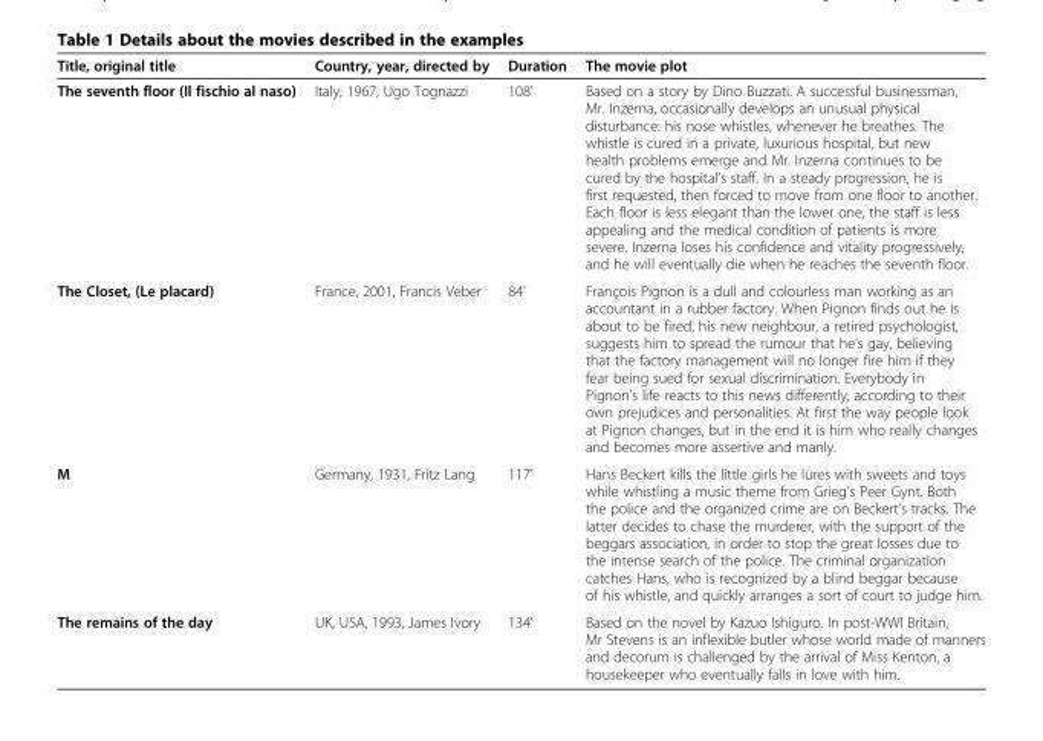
<table><thead><tr><td>Title, original title</td><td>Country, year, directed by</td><td>Duration</td><td>The movie plot</td></tr></thead><tbody><tr><td>The seventh floor (Il fischio al naso)</td><td>Italy, 1967, Ugo Tognazzi</td><td>108’</td><td>Based on a story by Dino Buzzati. A successful businessman, Mr. Inzerna, occasionally develops an unusual physical disturbance: his nose whistles, whenever he breathes. The whistle is cured in a private, luxurious hospital, but new health problems emerge and Mr. Inzerna continues to be cured by the hospital’s staff. In a steady progression, he is first requested, then forced to move from one floor to another. Each floor is less elegant than the lower one, the staff is less appealing and the medical condition of patients is more severe. Inzerna loses his confidence and vitality progressively, and he will eventually die when he reaches the seventh floor.</td></tr><tr><td>The Closet, (Le placard)</td><td>France, 2001, Francis Veber</td><td>84’</td><td>François Pignon is a dull and colourless man working as an accountant in a rubber factory. When Pignon finds out he is about to be fired, his new neighbour, a retired psychologist, suggests him to spread the rumour that he’s gay, believing that the factory management will no longer fire him if they fear being sued for sexual discrimination. Everybody in Pignon’s life reacts to this news differently, according to their own prejudices and personalities. At first the way people look at Pignon changes, but in the end it is him who really changes and becomes more assertive and manly.</td></tr><tr><td>M</td><td>Germany, 1931, Fritz Lang</td><td>117’</td><td>Hans Beckert kills the little girls he lures with sweets and toys while whistling a music theme from Grieg’s Peer Gynt. Both the police and the organized crime are on Beckert’s tracks. The latter decides to chase the murderer, with the support of the beggars association, in order to stop the great losses due to the intense search of the police. The criminal organization catches Hans, who is recognized by a blind beggar because of his whistle, and quickly arranges a sort of court to judge him.</td></tr><tr><td>The remains of the day</td><td>UK, USA, 1993, James Ivory</td><td>134’</td><td>Based on the novel by Kazuo Ishiguro. In post-WWI Britain, Mr Stevens is an inflexible butler whose world made of manners and decorum is challenged by the arrival of Miss Kenton, a housekeeper who eventually falls in love with him.</td></tr></tbody></table>